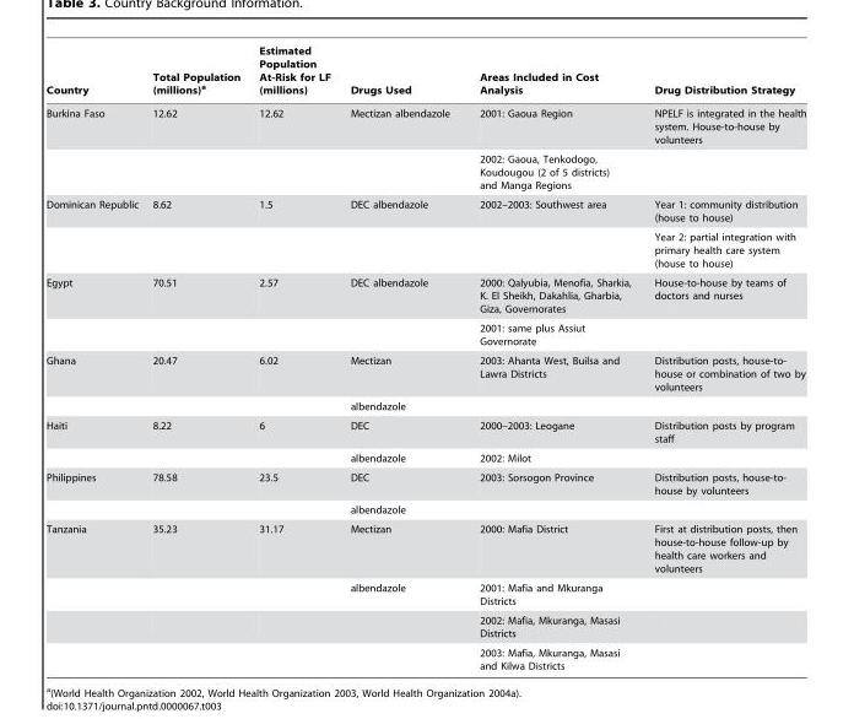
<table><thead><tr><td>Country</td><td>Total Population (millions)<sup>a</sup></td><td>Estimated Population At-Risk for LF (millions)</td><td>Drugs Used</td><td>Areas Included in Cost Analysis</td><td>Drug Distribution Strategy</td></tr></thead><tbody><tr><td rowspan="2">Burkina Faso</td><td>12.62</td><td>12.62</td><td>Mectizan albendazole</td><td>2001: Gaoua Region</td><td>NPELF is integrated in the health system. House-to-house by volunteers</td></tr><tr><td></td><td></td><td></td><td>2002: Gaoua, Tenkodogo, Koudougou (2 of 5 districts) and Manga Regions</td><td></td></tr><tr><td rowspan="2">Dominican Republic</td><td>8.62</td><td>1.5</td><td>DEC albendazole</td><td>2002–2003: Southwest area</td><td>Year 1: community distribution (house to house)</td></tr><tr><td></td><td></td><td></td><td></td><td>Year 2: partial integration with primary health care system (house to house)</td></tr><tr><td rowspan="2">Egypt</td><td>70.51</td><td>2.57</td><td>DEC albendazole</td><td>2000: Qalyubia, Menofia, Sharkia, K. El Sheikh, Dakahlia, Gharbia, Giza, Governorates</td><td>House-to-house by teams of doctors and nurses</td></tr><tr><td></td><td></td><td></td><td>2001: same plus Assiut Governorate</td><td></td></tr><tr><td rowspan="2">Ghana</td><td>20.47</td><td>6.02</td><td>Mectizan</td><td>2003: Ahanta West, Builsa and Lawra Districts</td><td>Distribution posts, house-to- house or combination of two by volunteers</td></tr><tr><td></td><td></td><td>albendazole</td><td></td><td></td></tr><tr><td rowspan="2">Haiti</td><td>8.22</td><td>6</td><td>DEC</td><td>2000–2003: Leogane</td><td>Distribution posts by program staff</td></tr><tr><td></td><td></td><td>albendazole</td><td>2002: Milot</td><td></td></tr><tr><td rowspan="2">Philippines</td><td>78.58</td><td>23.5</td><td>DEC</td><td>2003: Sorsogon Province</td><td>Distribution posts, house-to- house by volunteers</td></tr><tr><td></td><td></td><td>albendazole</td><td></td><td></td></tr><tr><td rowspan="4">Tanzania</td><td>35.23</td><td>31.17</td><td>Mectizan</td><td>2000: Mafia District</td><td>First at distribution posts, then house-to-house follow-up by health care workers and volunteers</td></tr><tr><td></td><td></td><td>albendazole</td><td>2001: Mafia and Mkuranga Districts</td><td></td></tr><tr><td></td><td></td><td></td><td>2002: Mafia, Mkuranga, Masasi Districts</td><td></td></tr><tr><td></td><td></td><td></td><td>2003: Mafia, Mkuranga, Masasi and Kilwa Districts</td><td></td></tr></tbody></table>